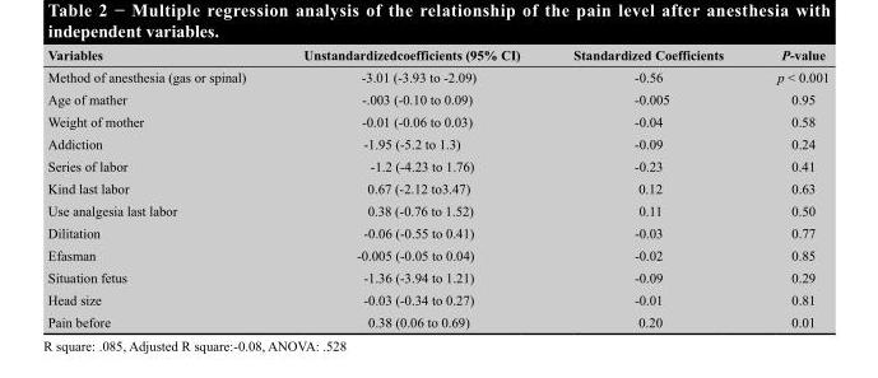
<table><thead><tr><td>Variables</td><td>Unstandardizedcoefficients (95% CI)</td><td>Standardized Coefficients</td><td>P-value</td></tr></thead><tbody><tr><td>Method of anesthesia (gas or spinal)</td><td>-3.01 (-3.93 to -2.09)</td><td>-0.56</td><td>p &lt; 0.001</td></tr><tr><td>Age of mather</td><td>-.003 (-0.10 to 0.09)</td><td>-0.005</td><td>0.95</td></tr><tr><td>Weight of mother</td><td>-0.01 (-0.06 to 0.03)</td><td>-0.04</td><td>0.58</td></tr><tr><td>Addiction</td><td>-1.95 (-5.2 to 1.3)</td><td>-0.09</td><td>0.24</td></tr><tr><td>Series of labor</td><td>-1.2 (-4.23 to 1.76)</td><td>-0.23</td><td>0.41</td></tr><tr><td>Kind last labor</td><td>0.67 (-2.12 to3.47)</td><td>0.12</td><td>0.63</td></tr><tr><td>Use analgesia last labor</td><td>0.38 (-0.76 to 1.52)</td><td>0.11</td><td>0.50</td></tr><tr><td>Dilitation</td><td>-0.06 (-0.55 to 0.41)</td><td>-0.03</td><td>0.77</td></tr><tr><td>Efasman</td><td>-0.005 (-0.05 to 0.04)</td><td>-0.02</td><td>0.85</td></tr><tr><td>Situation fetus</td><td>-1.36 (-3.94 to 1.21)</td><td>-0.09</td><td>0.29</td></tr><tr><td>Head size</td><td>-0.03 (-0.34 to 0.27)</td><td>-0.01</td><td>0.81</td></tr><tr><td>Pain before</td><td>0.38 (0.06 to 0.69)</td><td>0.20</td><td>0.01</td></tr></tbody></table>